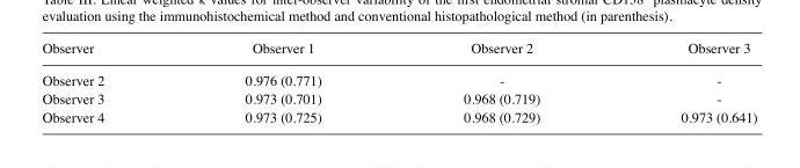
<table><thead><tr><td>Observer</td><td>Observer 1</td><td>Observer 2</td><td>Observer 3</td></tr></thead><tbody><tr><td>Observer 2</td><td>0.976 (0.771)</td><td>‑</td><td>‑</td></tr><tr><td>Observer 3</td><td>0.973 (0.701)</td><td>0.968 (0.719)</td><td>‑</td></tr><tr><td>Observer 4</td><td>0.973 (0.725)</td><td>0.968 (0.729)</td><td>0.973 (0.641)</td></tr></tbody></table>